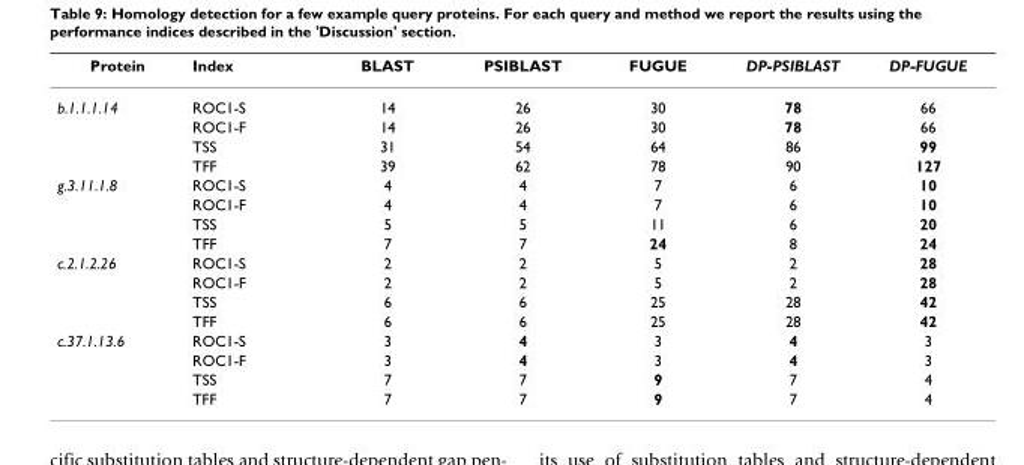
<table><thead><tr><td>Protein</td><td>Index</td><td>BLAST</td><td>PSIBLAST</td><td>FUGUE</td><td>DP-PSIBLAST</td><td>DP-FUGUE</td></tr></thead><tbody><tr><td rowspan="4">b.1.1.1.14</td><td>ROC1-S</td><td>14</td><td>26</td><td>30</td><td>78</td><td>66</td></tr><tr><td>ROC1-F</td><td>14</td><td>26</td><td>30</td><td>78</td><td>66</td></tr><tr><td>TSS</td><td>31</td><td>54</td><td>64</td><td>86</td><td>99</td></tr><tr><td>TFF</td><td>39</td><td>62</td><td>78</td><td>90</td><td>127</td></tr><tr><td rowspan="4">g.3.11.1.8</td><td>ROC1-S</td><td>4</td><td>4</td><td>7</td><td>6</td><td>10</td></tr><tr><td>ROC1-F</td><td>4</td><td>4</td><td>7</td><td>6</td><td>10</td></tr><tr><td>TSS</td><td>5</td><td>5</td><td>11</td><td>6</td><td>20</td></tr><tr><td>TFF</td><td>7</td><td>7</td><td>24</td><td>8</td><td>24</td></tr><tr><td rowspan="4">c.2.1.2.26</td><td>ROC1-S</td><td>2</td><td>2</td><td>5</td><td>2</td><td>28</td></tr><tr><td>ROC1-F</td><td>2</td><td>2</td><td>5</td><td>2</td><td>28</td></tr><tr><td>TSS</td><td>6</td><td>6</td><td>25</td><td>28</td><td>42</td></tr><tr><td>TFF</td><td>6</td><td>6</td><td>25</td><td>28</td><td>42</td></tr><tr><td rowspan="4">c.37.1.13.6</td><td>ROC1-S</td><td>3</td><td>4</td><td>3</td><td>4</td><td>3</td></tr><tr><td>ROC1-F</td><td>3</td><td>4</td><td>3</td><td>4</td><td>3</td></tr><tr><td>TSS</td><td>7</td><td>7</td><td>9</td><td>7</td><td>4</td></tr><tr><td>TFF</td><td>7</td><td>7</td><td>9</td><td>7</td><td>4</td></tr></tbody></table>